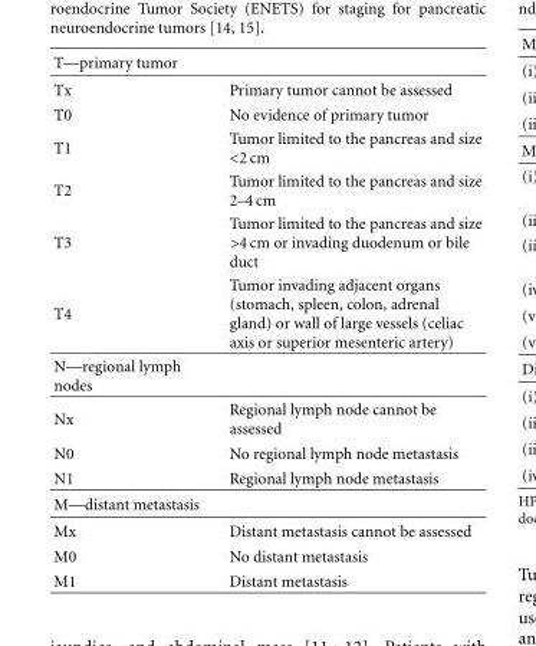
<table><thead><tr><td>T—primary tumor</td><td></td></tr></thead><tbody><tr><td>Tx</td><td>Primary tumor cannot be assessed</td></tr><tr><td>T0</td><td>No evidence of primary tumor</td></tr><tr><td>T1</td><td>Tumor limited to the pancreas and size &lt;2 cm</td></tr><tr><td>T2</td><td>Tumor limited to the pancreas and size 2–4 cm</td></tr><tr><td>T3</td><td>Tumor limited to the pancreas and size &gt;4 cm or invading duodenum or bile duct</td></tr><tr><td>T4</td><td>Tumor invading adjacent organs (stomach, spleen, colon, adrenal gland) or wall of large vessels (celiac axis or superior mesenteric artery)</td></tr><tr><td colspan="2">N—regional lymph nodes</td></tr><tr><td>Nx</td><td>Regional lymph node cannot be assessed</td></tr><tr><td>N0</td><td>No regional lymph node metastasis</td></tr><tr><td>N1</td><td>Regional lymph node metastasis</td></tr><tr><td colspan="2">M—distant metastasis</td></tr><tr><td>Mx</td><td>Distant metastasis cannot be assessed</td></tr><tr><td>M0</td><td>No distant metastasis</td></tr><tr><td>M1</td><td>Distant metastasis</td></tr></tbody></table>